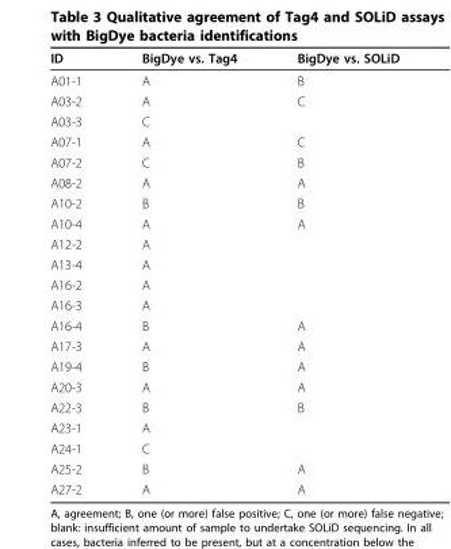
<table><thead><tr><td>ID</td><td>BigDye vs. Tag4</td><td>BigDye vs. SOLiD</td></tr></thead><tbody><tr><td>A01-1</td><td>A</td><td>B</td></tr><tr><td>A03-2</td><td>A</td><td>C</td></tr><tr><td>A03-3</td><td>C</td><td></td></tr><tr><td>A07-1</td><td>A</td><td>C</td></tr><tr><td>A07-2</td><td>C</td><td>B</td></tr><tr><td>A08-2</td><td>A</td><td>A</td></tr><tr><td>A10-2</td><td>B</td><td>B</td></tr><tr><td>A10-4</td><td>A</td><td>A</td></tr><tr><td>A12-2</td><td>A</td><td></td></tr><tr><td>A13-4</td><td>A</td><td></td></tr><tr><td>A16-2</td><td>A</td><td></td></tr><tr><td>A16-3</td><td>A</td><td></td></tr><tr><td>A16-4</td><td>B</td><td>A</td></tr><tr><td>A17-3</td><td>A</td><td>A</td></tr><tr><td>A19-4</td><td>B</td><td>A</td></tr><tr><td>A20-3</td><td>A</td><td>A</td></tr><tr><td>A22-3</td><td>B</td><td>B</td></tr><tr><td>A23-1</td><td>A</td><td></td></tr><tr><td>A24-1</td><td>C</td><td></td></tr><tr><td>A25-2</td><td>B</td><td>A</td></tr><tr><td>A27-2</td><td>A</td><td>A</td></tr></tbody></table>